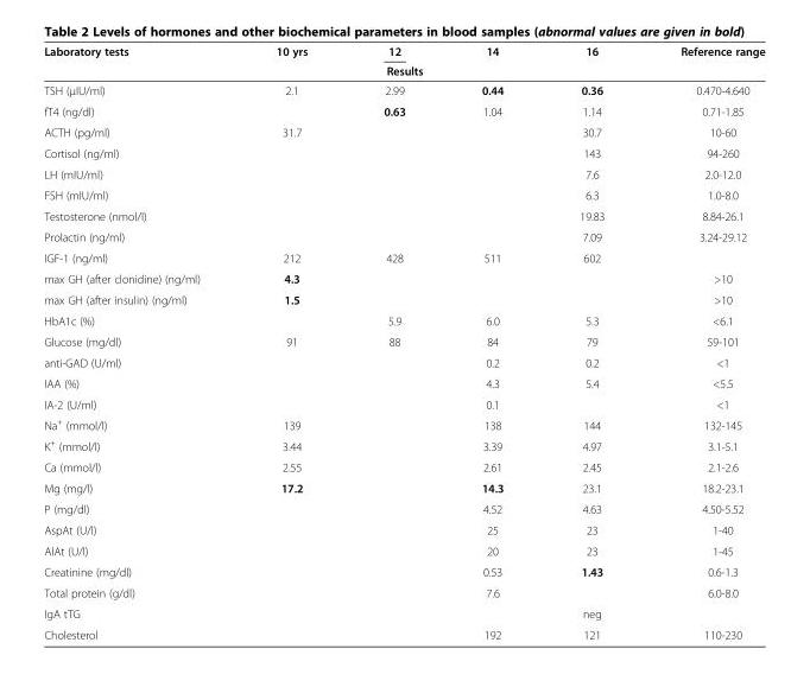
<table><thead><tr><td>Laboratory tests</td><td>10 yrs</td><td>12</td><td>14</td><td>16</td><td>Reference range</td></tr><tr><td colspan="6">Results</td></tr></thead><tbody><tr><td>TSH (μIU/ml)</td><td>2.1</td><td>2.99</td><td>0.44</td><td>0.36</td><td>0.470-4.640</td></tr><tr><td>fT4 (ng/dl)</td><td></td><td>0.63</td><td>1.04</td><td>1.14</td><td>0.71-1.85</td></tr><tr><td>ACTH (pg/ml)</td><td>31.7</td><td></td><td></td><td>30.7</td><td>10-60</td></tr><tr><td>Cortisol (ng/ml)</td><td></td><td></td><td></td><td>143</td><td>94-260</td></tr><tr><td>LH (mIU/ml)</td><td></td><td></td><td></td><td>7.6</td><td>2.0-12.0</td></tr><tr><td>FSH (mIU/ml)</td><td></td><td></td><td></td><td>6.3</td><td>1.0-8.0</td></tr><tr><td>Testosterone (nmol/l)</td><td></td><td></td><td></td><td>19.83</td><td>8.84-26.1</td></tr><tr><td>Prolactin (ng/ml)</td><td></td><td></td><td></td><td>7.09</td><td>3.24-29.12</td></tr><tr><td>IGF-1 (ng/ml)</td><td>212</td><td>428</td><td>511</td><td>602</td><td></td></tr><tr><td>max GH (after clonidine) (ng/ml)</td><td>4.3</td><td></td><td></td><td></td><td>&gt;10</td></tr><tr><td>max GH (after insulin) (ng/ml)</td><td>1.5</td><td></td><td></td><td></td><td>&gt;10</td></tr><tr><td>HbA1c (%)</td><td></td><td>5.9</td><td>6.0</td><td>5.3</td><td>&lt;6.1</td></tr><tr><td>Glucose (mg/dl)</td><td>91</td><td>88</td><td>84</td><td>79</td><td>59-101</td></tr><tr><td>anti-GAD (U/ml)</td><td></td><td></td><td>0.2</td><td>0.2</td><td>&lt;1</td></tr><tr><td>IAA (%)</td><td></td><td></td><td>4.3</td><td>5.4</td><td>&lt;5.5</td></tr><tr><td>IA-2 (U/ml)</td><td></td><td></td><td>0.1</td><td></td><td>&lt;1</td></tr><tr><td>Na<sup>+</sup> (mmol/l)</td><td>139</td><td></td><td>138</td><td>144</td><td>132-145</td></tr><tr><td>K<sup>+</sup> (mmol/l)</td><td>3.44</td><td></td><td>3.39</td><td>4.97</td><td>3.1-5.1</td></tr><tr><td>Ca (mmol/l)</td><td>2.55</td><td></td><td>2.61</td><td>2.45</td><td>2.1-2.6</td></tr><tr><td>Mg (mg/l)</td><td>17.2</td><td></td><td>14.3</td><td>23.1</td><td>18.2-23.1</td></tr><tr><td>P (mg/dl)</td><td></td><td></td><td>4.52</td><td>4.63</td><td>4.50-5.52</td></tr><tr><td>AspAt (U/l)</td><td></td><td></td><td>25</td><td>23</td><td>1-40</td></tr><tr><td>AlAt (U/l)</td><td></td><td></td><td>20</td><td>23</td><td>1-45</td></tr><tr><td>Creatinine (mg/dl)</td><td></td><td></td><td>0.53</td><td>1.43</td><td>0.6-1.3</td></tr><tr><td>Total protein (g/dl)</td><td></td><td></td><td>7.6</td><td></td><td>6.0-8.0</td></tr><tr><td>IgA tTG</td><td></td><td></td><td></td><td>neg</td><td></td></tr><tr><td>Cholesterol</td><td></td><td></td><td>192</td><td>121</td><td>110-230</td></tr></tbody></table>